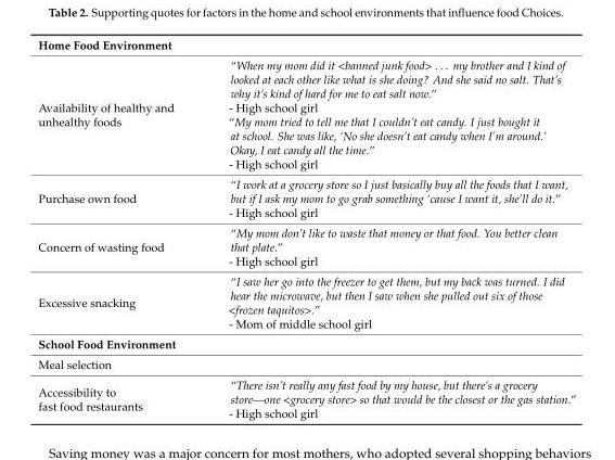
<table><tbody><tr><td colspan="2">Home Food Environment</td></tr><tr><td>Availability of healthy and unhealthy foods</td><td>“When my mom did it &lt;banned junk food&gt; . . . my brother and I kind of looked at each other like what is she doing? And she said no salt. That’s why it’s kind of hard for me to eat salt now.” - High school girl “My mom tried to tell me that I couldn’t eat candy. I just bought it at school. She was like, ‘No she doesn’t eat candy when I’m around.’ Okay, I eat candy all the time.” - High school girl</td></tr><tr><td>Purchase own food</td><td>“I work at a grocery store so I just basically buy all the foods that I want, but if I ask my mom to go grab something ‘cause I want it, she’ll do it.” - High school girl</td></tr><tr><td>Concern of wasting food</td><td>“My mom don’t like to waste that money or that food. You better clean that plate.” - High school girl</td></tr><tr><td>Excessive snacking</td><td>“I saw her go into the freezer to get them, but my back was turned. I did hear the microwave, but then I saw when she pulled out six of those &lt;frozen taquitos&gt;.” - Mom of middle school girl</td></tr><tr><td colspan="2">School Food Environment</td></tr><tr><td colspan="2">Meal selection</td></tr><tr><td>Accessibility to fast food restaurants</td><td>“There isn’t really any fast food by my house, but there’s a grocery store—one &lt;grocery store&gt; so that would be the closest or the gas station.” - High school girl</td></tr></tbody></table>